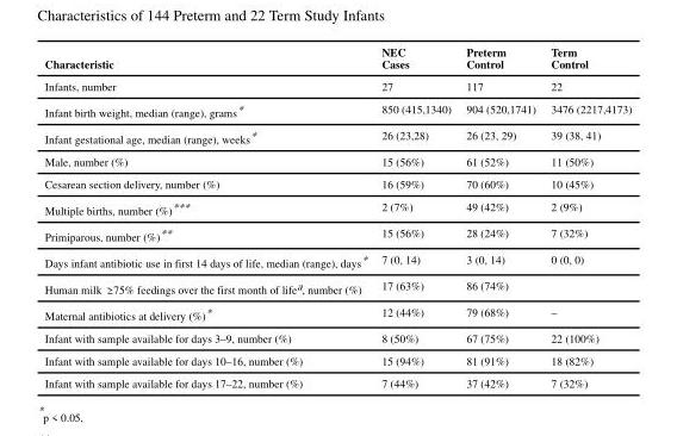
<table><thead><tr><td>Characteristic</td><td>NEC Cases</td><td>Preterm Control</td><td>Term Control</td></tr></thead><tbody><tr><td>Infants, number</td><td>27</td><td>117</td><td>22</td></tr><tr><td>Infant birth weight, median (range), grams*</td><td>850 (415,1340)</td><td>904 (520,1741)</td><td>3476 (2217,4173)</td></tr><tr><td>Infant gestational age, median (range), weeks*</td><td>26 (23,28)</td><td>26 (23, 29)</td><td>39 (38, 41)</td></tr><tr><td>Male, number (%)</td><td>15 (56%)</td><td>61 (52%)</td><td>11 (50%)</td></tr><tr><td>Cesarean section delivery, number (%)</td><td>16 (59%)</td><td>70 (60%)</td><td>10 (45%)</td></tr><tr><td>Multiple births, number (%)***</td><td>2 (7%)</td><td>49 (42%)</td><td>2 (9%)</td></tr><tr><td>Primiparous, number (%)**</td><td>15 (56%)</td><td>28 (24%)</td><td>7 (32%)</td></tr><tr><td>Days infant antibiotic use in first 14 days of life, median (range), days*</td><td>7 (0, 14)</td><td>3 (0, 14)</td><td>0 (0, 0)</td></tr><tr><td>Human milk ≥ 75% feedings over the first month of life<sup>a</sup>, number (%)</td><td>17 (63%)</td><td>86 (74%)</td><td></td></tr><tr><td>Maternal antibiotics at delivery (%)*</td><td>12 (44%)</td><td>79 (68%)</td><td>–</td></tr><tr><td>Infant with sample available for days 3–9, number (%)</td><td>8 (50%)</td><td>67 (75%)</td><td>22 (100%)</td></tr><tr><td>Infant with sample available for days 10–16, number (%)</td><td>15 (94%)</td><td>81 (91%)</td><td>18 (82%)</td></tr><tr><td>Infant with sample available for days 17–22, number (%)</td><td>7 (44%)</td><td>37 (42%)</td><td>7 (32%)</td></tr></tbody></table>